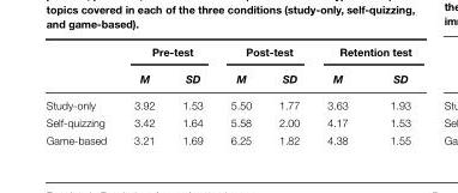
<table><thead><tr><td rowspan="2"></td><td colspan="2">Pre-test</td><td colspan="2">Post-test</td><td colspan="2">Retention test</td></tr><tr><td>M</td><td>SD</td><td>M</td><td>SD</td><td>M</td><td>SD</td></tr></thead><tbody><tr><td>Study-only</td><td>3.92</td><td>1.53</td><td>5.50</td><td>1.77</td><td>3.63</td><td>1.93</td></tr><tr><td>Self-quizzing</td><td>3.42</td><td>1.64</td><td>5.58</td><td>2.00</td><td>4.17</td><td>1.53</td></tr><tr><td>Game-based</td><td>3.21</td><td>1.69</td><td>6.25</td><td>1.82</td><td>4.38</td><td>1.55</td></tr></tbody></table>